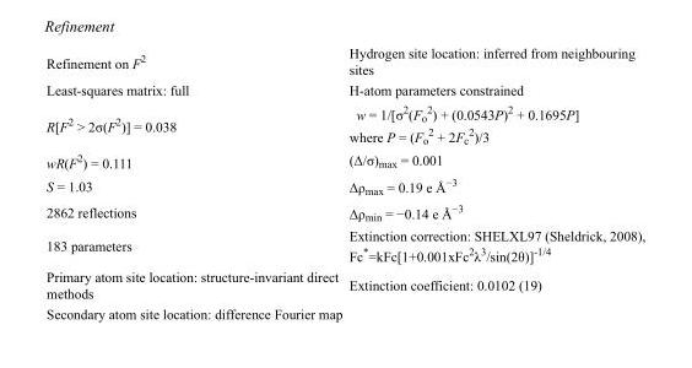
<table><tbody><tr><td>Refinement on F<sup>2</sup></td><td>Hydrogen site location: inferred from neighbouring sites</td></tr><tr><td>Least-squares matrix: full</td><td>H-atom parameters constrained</td></tr><tr><td>R[F<sup>2</sup> &gt; 2σ(F<sup>2</sup>)] = 0.038</td><td>w = 1/[σ<sup>2</sup>(F<sub>o</sub> <sup>2</sup>) + (0.0543P)<sup>2</sup> + 0.1695P] where P = (F<sub>o</sub> <sup>2</sup> + 2F<sub>c</sub> <sup>2</sup>)/3</td></tr><tr><td>wR(F<sup>2</sup>) = 0.111</td><td>(Δ/σ)<sub>max</sub> = 0.001</td></tr><tr><td>S = 1.03</td><td>Δρ<sub>max</sub> = 0.19 e Å<sup>−3</sup></td></tr><tr><td>2862 reflections</td><td>Δρ<sub>min</sub> = −0.14 e Å<sup>−3</sup></td></tr><tr><td>183 parameters</td><td>Extinction correction: SHELXL97 (Sheldrick, 2008), Fc*=kFc[1+0.001xFc<sup>2</sup>λ<sup>3</sup>/sin(2θ)]<sup>-1/4</sup></td></tr><tr><td>Primary atom site location: structure-invariant direct methods</td><td>Extinction coefficient: 0.0102 (19)</td></tr><tr><td>Secondary atom site location: difference Fourier map</td><td></td></tr></tbody></table>